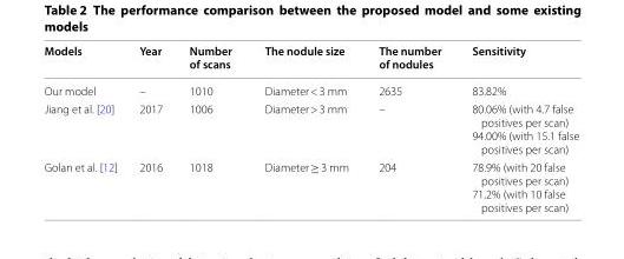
<table><thead><tr><td>Models</td><td>Year</td><td>Number of scans</td><td>The nodule size</td><td>The number of nodules</td><td>Sensitivity</td></tr></thead><tbody><tr><td>Our model</td><td>–</td><td>1010</td><td>Diameter &lt; 3 mm</td><td>2635</td><td>83.82%</td></tr><tr><td>Jiang et al. [20]</td><td>2017</td><td>1006</td><td>Diameter &gt; 3 mm</td><td>–</td><td>80.06% (with 4.7 false positives per scan) 94.00% (with 15.1 false positives per scan)</td></tr><tr><td>Golan et al. [12]</td><td>2016</td><td>1018</td><td>Diameter ≥ 3 mm</td><td>204</td><td>78.9% (with 20 false positives per scan) 71.2% (with 10 false positives per scan)</td></tr></tbody></table>